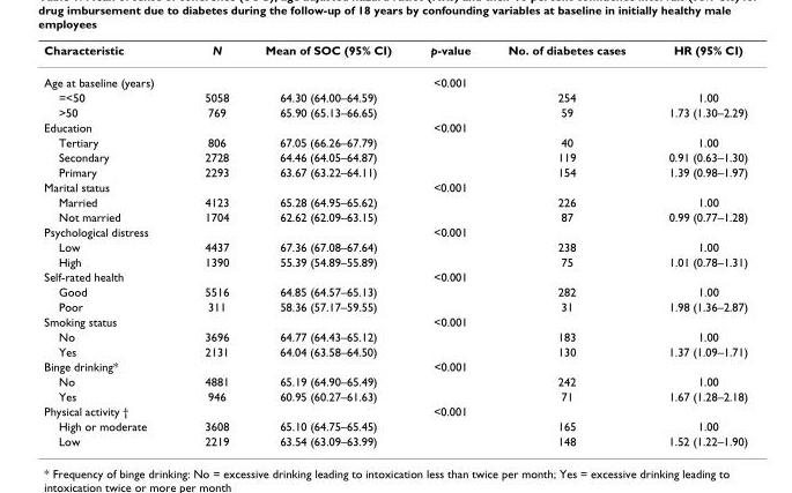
<table><thead><tr><td>Characteristic</td><td>N</td><td>Mean of SOC (95% CI)</td><td>p-value</td><td>No. of diabetes cases</td><td>HR (95% CI)</td></tr></thead><tbody><tr><td>Age at baseline (years)</td><td></td><td></td><td>&lt;0.001</td><td></td><td></td></tr><tr><td>=&lt;50</td><td>5058</td><td>64.30 (64.00–64.59)</td><td></td><td>254</td><td>1.00</td></tr><tr><td>&gt;50</td><td>769</td><td>65.90 (65.13–66.65)</td><td></td><td>59</td><td>1.73 (1.30–2.29)</td></tr><tr><td>Education</td><td></td><td></td><td>&lt;0.001</td><td></td><td></td></tr><tr><td>Tertiary</td><td>806</td><td>67.05 (66.26–67.79)</td><td></td><td>40</td><td>1.00</td></tr><tr><td>Secondary</td><td>2728</td><td>64.46 (64.05–64.87)</td><td></td><td>119</td><td>0.91 (0.63–1.30)</td></tr><tr><td>Primary</td><td>2293</td><td>63.67 (63.22–64.11)</td><td></td><td>154</td><td>1.39 (0.98–1.97)</td></tr><tr><td>Marital status</td><td></td><td></td><td>&lt;0.001</td><td></td><td></td></tr><tr><td>Married</td><td>4123</td><td>65.28 (64.95–65.62)</td><td></td><td>226</td><td>1.00</td></tr><tr><td>Not married</td><td>1704</td><td>62.62 (62.09–63.15)</td><td></td><td>87</td><td>0.99 (0.77–1.28)</td></tr><tr><td>Psychological distress</td><td></td><td></td><td>&lt;0.001</td><td></td><td></td></tr><tr><td>Low</td><td>4437</td><td>67.36 (67.08–67.64)</td><td></td><td>238</td><td>1.00</td></tr><tr><td>High</td><td>1390</td><td>55.39 (54.89–55.89)</td><td></td><td>75</td><td>1.01 (0.78–1.31)</td></tr><tr><td>Self-rated health</td><td></td><td></td><td>&lt;0.001</td><td></td><td></td></tr><tr><td>Good</td><td>5516</td><td>64.85 (64.57–65.13)</td><td></td><td>282</td><td>1.00</td></tr><tr><td>Poor</td><td>311</td><td>58.36 (57.17–59.55)</td><td></td><td>31</td><td>1.98 (1.36–2.87)</td></tr><tr><td>Smoking status</td><td></td><td></td><td>&lt;0.001</td><td></td><td></td></tr><tr><td>No</td><td>3696</td><td>64.77 (64.43–65.12)</td><td></td><td>183</td><td>1.00</td></tr><tr><td>Yes</td><td>2131</td><td>64.04 (63.58–64.50)</td><td></td><td>130</td><td>1.37 (1.09–1.71)</td></tr><tr><td>Binge drinking*</td><td></td><td></td><td>&lt;0.001</td><td></td><td></td></tr><tr><td>No</td><td>4881</td><td>65.19 (64.90–65.49)</td><td></td><td>242</td><td>1.00</td></tr><tr><td>Yes</td><td>946</td><td>60.95 (60.27–61.63)</td><td></td><td>71</td><td>1.67 (1.28–2.18)</td></tr><tr><td>Physical activity †</td><td></td><td></td><td>&lt;0.001</td><td></td><td></td></tr><tr><td>High or moderate</td><td>3608</td><td>65.10 (64.75–65.45)</td><td></td><td>165</td><td>1.00</td></tr><tr><td>Low</td><td>2219</td><td>63.54 (63.09–63.99)</td><td></td><td>148</td><td>1.52 (1.22–1.90)</td></tr></tbody></table>